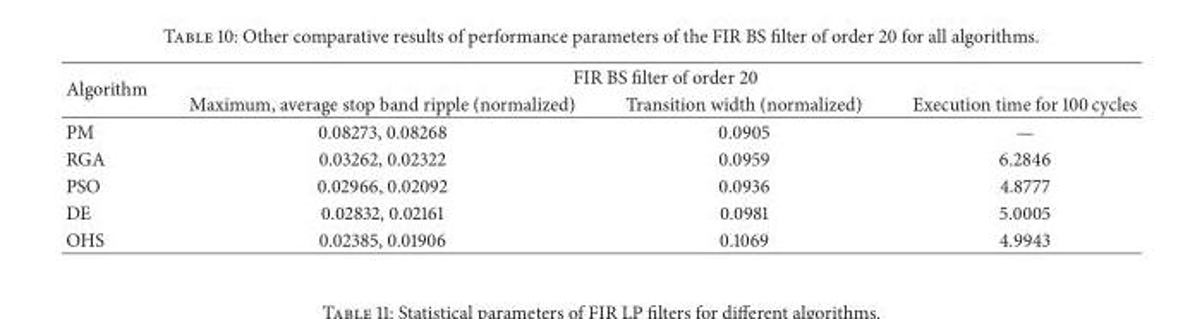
<table><thead><tr><td rowspan="2">Algorithm</td><td colspan="3">FIR BS filter of order 20</td></tr><tr><td>Maximum, average stop band ripple (normalized)</td><td>Transition width (normalized)</td><td>Execution time for 100 cycles</td></tr></thead><tbody><tr><td>PM</td><td>0.08273, 0.08268</td><td>0.0905</td><td>—</td></tr><tr><td>RGA</td><td>0.03262, 0.02322</td><td>0.0959</td><td>6.2846</td></tr><tr><td>PSO</td><td>0.02966, 0.02092</td><td>0.0936</td><td>4.8777</td></tr><tr><td>DE</td><td>0.02832, 0.02161</td><td>0.0981</td><td>5.0005</td></tr><tr><td>OHS</td><td>0.02385, 0.01906</td><td>0.1069</td><td>4.9943</td></tr></tbody></table>